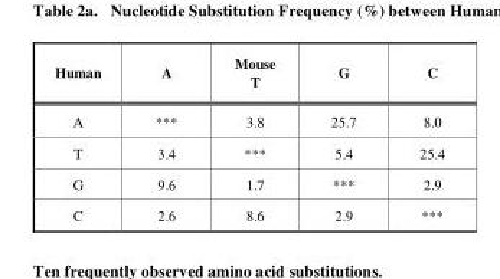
<table><thead><tr><td>Human</td><td>A</td><td>Mouse T</td><td>G</td><td>C</td></tr></thead><tbody><tr><td>A</td><td>***</td><td>3.8</td><td>25.7</td><td>8.0</td></tr><tr><td>T</td><td>3.4</td><td>***</td><td>5.4</td><td>25.4</td></tr><tr><td>G</td><td>9.6</td><td>1.7</td><td>***</td><td>2.9</td></tr><tr><td>C</td><td>2.6</td><td>8.6</td><td>2.9</td><td>***</td></tr></tbody></table>